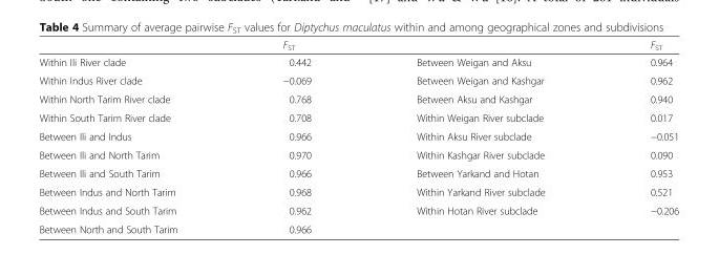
<table><thead><tr><td></td><td>F<sub>ST</sub></td><td></td><td>F<sub>ST</sub></td></tr></thead><tbody><tr><td>Within Ili River clade</td><td>0.442</td><td>Between Weigan and Aksu</td><td>0.964</td></tr><tr><td>Within Indus River clade</td><td>−0.069</td><td>Between Weigan and Kashgar</td><td>0.962</td></tr><tr><td>Within North Tarim River clade</td><td>0.768</td><td>Between Aksu and Kashgar</td><td>0.940</td></tr><tr><td>Within South Tarim River clade</td><td>0.708</td><td>Within Weigan River subclade</td><td>0.017</td></tr><tr><td>Between Ili and Indus</td><td>0.966</td><td>Within Aksu River subclade</td><td>−0.051</td></tr><tr><td>Between Ili and North Tarim</td><td>0.970</td><td>Within Kashgar River subclade</td><td>0.090</td></tr><tr><td>Between Ili and South Tarim</td><td>0.966</td><td>Between Yarkand and Hotan</td><td>0.953</td></tr><tr><td>Between Indus and North Tarim</td><td>0.968</td><td>Within Yarkand River subclade</td><td>0.521</td></tr><tr><td>Between Indus and South Tarim</td><td>0.962</td><td>Within Hotan River subclade</td><td>−0.206</td></tr><tr><td>Between North and South Tarim</td><td>0.966</td><td></td><td></td></tr></tbody></table>